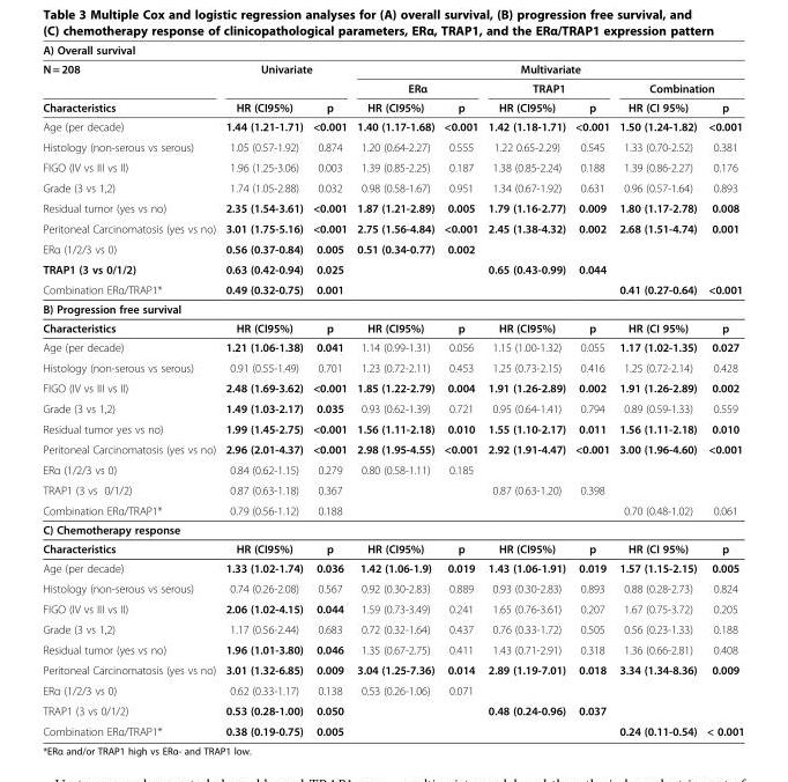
<table><thead><tr><td colspan="9">A) Overall survival</td></tr><tr><td rowspan="3">N = 208 Characteristics</td><td colspan="2">Univariate</td><td colspan="6">Multivariate</td></tr><tr><td rowspan="2">HR (CI95%)</td><td rowspan="2">p</td><td colspan="2">ERα</td><td colspan="2">TRAP1</td><td colspan="2">Combination</td></tr><tr><td>HR (CI95%)</td><td>p</td><td>HR (CI95%)</td><td>p</td><td>HR (CI 95%)</td><td>p</td></tr></thead><tbody><tr><td>Age (per decade)</td><td>1.44 (1.21-1.71)</td><td>&lt;0.001</td><td>1.40 (1.17-1.68)</td><td>&lt;0.001</td><td>1.42 (1.18-1.71)</td><td>&lt;0.001</td><td>1.50 (1.24-1.82)</td><td>&lt;0.001</td></tr><tr><td>Histology (non-serous vs serous)</td><td>1.05 (0.57-1.92)</td><td>0.874</td><td>1.20 (0.64-2.27)</td><td>0.555</td><td>1.22 0.65-2.29)</td><td>0.545</td><td>1.33 (0.70-2.52)</td><td>0.381</td></tr><tr><td>FIGO (IV vs III vs II)</td><td>1.96 (1.25-3.06)</td><td>0.003</td><td>1.39 (0.85-2.25)</td><td>0.187</td><td>1.38 (0.85-2.24)</td><td>0.188</td><td>1.39 (0.86-2.27)</td><td>0.176</td></tr><tr><td>Grade (3 vs 1,2)</td><td>1.74 (1.05-2.88)</td><td>0.032</td><td>0.98 (0.58-1.67)</td><td>0.951</td><td>1.34 (0.67-1.92)</td><td>0.631</td><td>0.96 (0.57-1.64)</td><td>0.893</td></tr><tr><td>Residual tumor (yes vs no)</td><td>2.35 (1.54-3.61)</td><td>&lt;0.001</td><td>1.87 (1.21-2.89)</td><td>0.005</td><td>1.79 (1.16-2.77)</td><td>0.009</td><td>1.80 (1.17-2.78)</td><td>0.008</td></tr><tr><td>Peritoneal Carcinomatosis (yes vs no)</td><td>3.01 (1.75-5.16)</td><td>&lt;0.001</td><td>2.75 (1.56-4.84)</td><td>&lt;0.001</td><td>2.45 (1.38-4.32)</td><td>0.002</td><td>2.68 (1.51-4.74)</td><td>0.001</td></tr><tr><td>ERα (1/2/3 vs 0)</td><td>0.56 (0.37-0.84)</td><td>0.005</td><td>0.51 (0.34-0.77)</td><td>0.002</td><td></td><td></td><td></td><td></td></tr><tr><td>TRAP1 (3 vs 0/1/2)</td><td>0.63 (0.42-0.94)</td><td>0.025</td><td></td><td></td><td>0.65 (0.43-0.99)</td><td>0.044</td><td></td><td></td></tr><tr><td>Combination ERα/TRAP1*</td><td>0.49 (0.32-0.75)</td><td>0.001</td><td></td><td></td><td></td><td></td><td>0.41 (0.27-0.64)</td><td>&lt;0.001</td></tr><tr><td colspan="9">B) Progression free survival</td></tr><tr><td>Characteristics</td><td>HR (CI95%)</td><td>p</td><td>HR (CI95%)</td><td>p</td><td>HR (CI95%)</td><td>p</td><td>HR (CI 95%)</td><td>p</td></tr><tr><td>Age (per decade)</td><td>1.21 (1.06-1.38)</td><td>0.041</td><td>1.14 (0.99-1.31)</td><td>0.056</td><td>1.15 (1.00-1.32)</td><td>0.055</td><td>1.17 (1.02-1.35)</td><td>0.027</td></tr><tr><td>Histology (non-serous vs serous)</td><td>0.91 (0.55-1.49)</td><td>0.701</td><td>1.23 (0.72-2.11)</td><td>0.453</td><td>1.25 (0.73-2.15)</td><td>0.416</td><td>1.25 (0.72-2.14)</td><td>0.428</td></tr><tr><td>FIGO (IV vs III vs II)</td><td>2.48 (1.69-3.62)</td><td>&lt;0.001</td><td>1.85 (1.22-2.79)</td><td>0.004</td><td>1.91 (1.26-2.89)</td><td>0.002</td><td>1.91 (1.26-2.89)</td><td>0.002</td></tr><tr><td>Grade (3 vs 1,2)</td><td>1.49 (1.03-2.17)</td><td>0.035</td><td>0.93 (0.62-1.39)</td><td>0.721</td><td>0.95 (0.64-1.41)</td><td>0.794</td><td>0.89 (0.59-1.33)</td><td>0.559</td></tr><tr><td>Residual tumor yes vs no)</td><td>1.99 (1.45-2.75)</td><td>&lt;0.001</td><td>1.56 (1.11-2.18)</td><td>0.010</td><td>1.55 (1.10-2.17)</td><td>0.011</td><td>1.56 (1.11-2.18)</td><td>0.010</td></tr><tr><td>Peritoneal Carcinomatosis (yes vs no)</td><td>2.96 (2.01-4.37)</td><td>&lt;0.001</td><td>2.98 (1.95-4.55)</td><td>&lt;0.001</td><td>2.92 (1.91-4.47)</td><td>&lt;0.001</td><td>3.00 (1.96-4.60)</td><td>&lt;0.001</td></tr><tr><td>ERα (1/2/3 vs 0)</td><td>0.84 (0.62-1.15)</td><td>0.279</td><td>0.80 (0.58-1.11)</td><td>0.185</td><td></td><td></td><td></td><td></td></tr><tr><td>TRAP1 (3 vs 0/1/2)</td><td>0.87 (0.63-1.18)</td><td>0.367</td><td></td><td></td><td>0.87 (0.63-1.20)</td><td>0.398</td><td></td><td></td></tr><tr><td>Combination ERα/TRAP1*</td><td>0.79 (0.56-1.12)</td><td>0.188</td><td></td><td></td><td></td><td></td><td>0.70 (0.48-1.02)</td><td>0.061</td></tr><tr><td colspan="9">C) Chemotherapy response</td></tr><tr><td>Characteristics</td><td>HR (CI95%)</td><td>p</td><td>HR (CI95%)</td><td>p</td><td>HR (CI95%)</td><td>p</td><td>HR (CI 95%)</td><td>p</td></tr><tr><td>Age (per decade)</td><td>1.33 (1.02-1.74)</td><td>0.036</td><td>1.42 (1.06-1.9)</td><td>0.019</td><td>1.43 (1.06-1.91)</td><td>0.019</td><td>1.57 (1.15-2.15)</td><td>0.005</td></tr><tr><td>Histology (non-serous vs serous)</td><td>0.74 (0.26-2.08)</td><td>0.567</td><td>0.92 (0.30-2.83)</td><td>0.889</td><td>0.93 (0.30-2.83)</td><td>0.893</td><td>0.88 (0.28-2.73)</td><td>0.824</td></tr><tr><td>FIGO (IV vs III vs II)</td><td>2.06 (1.02-4.15)</td><td>0.044</td><td>1.59 (0.73-3.49)</td><td>0.241</td><td>1.65 (0.76-3.61)</td><td>0.207</td><td>1.67 (0.75-3.72)</td><td>0.205</td></tr><tr><td>Grade (3 vs 1,2)</td><td>1.17 (0.56-2.44)</td><td>0.683</td><td>0.72 (0.32-1.64)</td><td>0.437</td><td>0.76 (0.33-1.72)</td><td>0.505</td><td>0.56 (0.23-1.33)</td><td>0.188</td></tr><tr><td>Residual tumor (yes vs no)</td><td>1.96 (1.01-3.80)</td><td>0.046</td><td>1.35 (0.67-2.75)</td><td>0.411</td><td>1.43 (0.71-2.91)</td><td>0.318</td><td>1.36 (0.66-2.81)</td><td>0.408</td></tr><tr><td>Peritoneal Carcinomatosis (yes vs no)</td><td>3.01 (1.32-6.85)</td><td>0.009</td><td>3.04 (1.25-7.36)</td><td>0.014</td><td>2.89 (1.19-7.01)</td><td>0.018</td><td>3.34 (1.34-8.36)</td><td>0.009</td></tr><tr><td>ERα (1/2/3 vs 0)</td><td>0.62 (0.33-1.17)</td><td>0.138</td><td>0.53 (0.26-1.06)</td><td>0.071</td><td></td><td></td><td></td><td></td></tr><tr><td>TRAP1 (3 vs 0/1/2)</td><td>0.53 (0.28-1.00)</td><td>0.050</td><td></td><td></td><td>0.48 (0.24-0.96)</td><td>0.037</td><td></td><td></td></tr><tr><td>Combination ERα/TRAP1*</td><td>0.38 (0.19-0.75)</td><td>0.005</td><td></td><td></td><td></td><td></td><td>0.24 (0.11-0.54)</td><td>&lt; 0.001</td></tr></tbody></table>